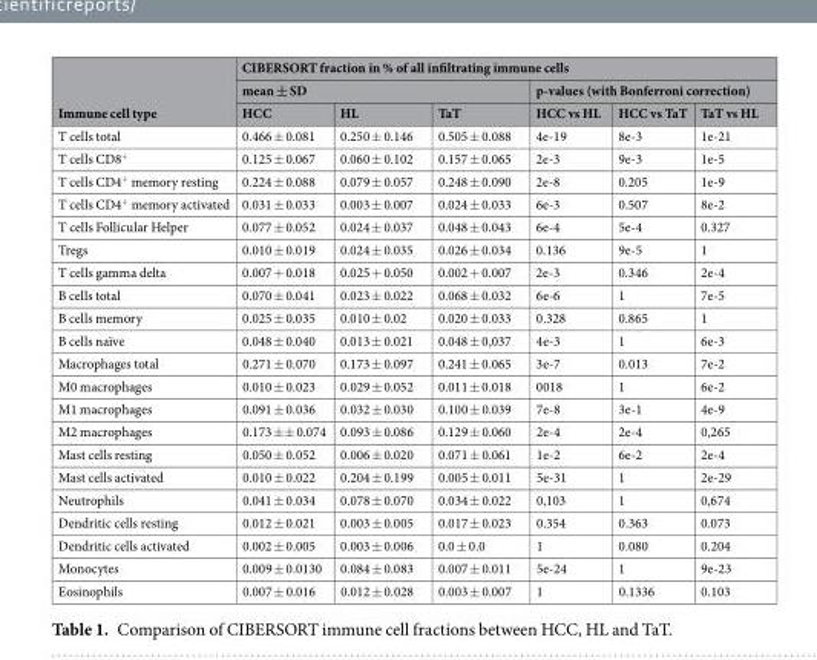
<table><thead><tr><td rowspan="3">Immune cell type</td><td colspan="6">CIBERSORT fraction in % of all infiltrating immune cells</td></tr><tr><td colspan="3">mean ± SD</td><td colspan="3">p-values (with Bonferroni correction)</td></tr><tr><td>HCC</td><td>HL</td><td>TaT</td><td>HCC vs HL</td><td>HCC vs TaT</td><td>TaT vs HL</td></tr></thead><tbody><tr><td>T cells total</td><td>0.466 ± 0.081</td><td>0.250 ± 0.146</td><td>0.505 ± 0.088</td><td>4e-19</td><td>8e-3</td><td>1e-21</td></tr><tr><td>T cells CD8<sup>+</sup></td><td>0.125 ± 0.067</td><td>0.060 ± 0.102</td><td>0.157 ± 0.065</td><td>2e-3</td><td>9e-3</td><td>1e-5</td></tr><tr><td>T cells CD4<sup>+</sup> memory resting</td><td>0.224 ± 0.088</td><td>0.079 ± 0.057</td><td>0.248 ± 0.090</td><td>2e-8</td><td>0.205</td><td>1e-9</td></tr><tr><td>T cells CD4<sup>+</sup> memory activated</td><td>0.031 ± 0.033</td><td>0.003 ± 0.007</td><td>0.024 ± 0.033</td><td>6e-3</td><td>0.507</td><td>8e-2</td></tr><tr><td>T cells Follicular Helper</td><td>0.077 ± 0.052</td><td>0.024 ± 0.037</td><td>0.048 ± 0.043</td><td>6e-4</td><td>5e-4</td><td>0.327</td></tr><tr><td>Tregs</td><td>0.010 ± 0.019</td><td>0.024 ± 0.035</td><td>0.026 ± 0.034</td><td>0.136</td><td>9e-5</td><td>1</td></tr><tr><td>T cells gamma delta</td><td>0.007 + 0.018</td><td>0.025 + 0.050</td><td>0.002 + 0.007</td><td>2e-3</td><td>0.346</td><td>2e-4</td></tr><tr><td>B cells total</td><td>0.070 ± 0.041</td><td>0.023 ± 0.022</td><td>0.068 ± 0.032</td><td>6e-6</td><td>1</td><td>7e-5</td></tr><tr><td>B cells memory</td><td>0.025 ± 0.035</td><td>0.010 ± 0.02</td><td>0.020 ± 0.033</td><td>0.328</td><td>0.865</td><td>1</td></tr><tr><td>B cells naïve</td><td>0.048 ± 0.040</td><td>0.013 ± 0.021</td><td>0.048 ± 0,037</td><td>4e-3</td><td>1</td><td>6e-3</td></tr><tr><td>Macrophages total</td><td>0.271 ± 0.070</td><td>0.173 ± 0.097</td><td>0.241 ± 0.065</td><td>3e-7</td><td>0.013</td><td>7e-2</td></tr><tr><td>M0 macrophages</td><td>0.010 ± 0.023</td><td>0.029 ± 0.052</td><td>0.011 ± 0.018</td><td>0018</td><td>1</td><td>6e-2</td></tr><tr><td>M1 macrophages</td><td>0.091 ± 0.036</td><td>0.032 ± 0.030</td><td>0.100 ± 0.039</td><td>7e-8</td><td>3e-1</td><td>4e-9</td></tr><tr><td>M2 macrophages</td><td>0.173 ±± 0.074</td><td>0.093 ± 0.086</td><td>0.129 ± 0.060</td><td>2e-4</td><td>2e-4</td><td>0,265</td></tr><tr><td>Mast cells resting</td><td>0.050 ± 0.052</td><td>0.006 ± 0.020</td><td>0.071 ± 0.061</td><td>1e-2</td><td>6e-2</td><td>2e-4</td></tr><tr><td>Mast cells activated</td><td>0.010 ± 0.022</td><td>0.204 ± 0.199</td><td>0.005 ± 0.011</td><td>5e-31</td><td>1</td><td>2e-29</td></tr><tr><td>Neutrophils</td><td>0.041 ± 0.034</td><td>0.078 ± 0.070</td><td>0.034 ± 0.022</td><td>0,103</td><td>1</td><td>0,674</td></tr><tr><td>Dendritic cells resting</td><td>0.012 ± 0.021</td><td>0.003 ± 0.005</td><td>0.017 ± 0.023</td><td>0.354</td><td>0.363</td><td>0.073</td></tr><tr><td>Dendritic cells activated</td><td>0.002 ± 0.005</td><td>0.003 ± 0.006</td><td>0.0 ± 0.0</td><td>1</td><td>0.080</td><td>0.204</td></tr><tr><td>Monocytes</td><td>0.009 ± 0.0130</td><td>0.084 ± 0.083</td><td>0.007 ± 0.011</td><td>5e-24</td><td>1</td><td>9e-23</td></tr><tr><td>Eosinophils</td><td>0.007 ± 0.016</td><td>0.012 ± 0.028</td><td>0.003 ± 0.007</td><td>1</td><td>0.1336</td><td>0.103</td></tr></tbody></table>